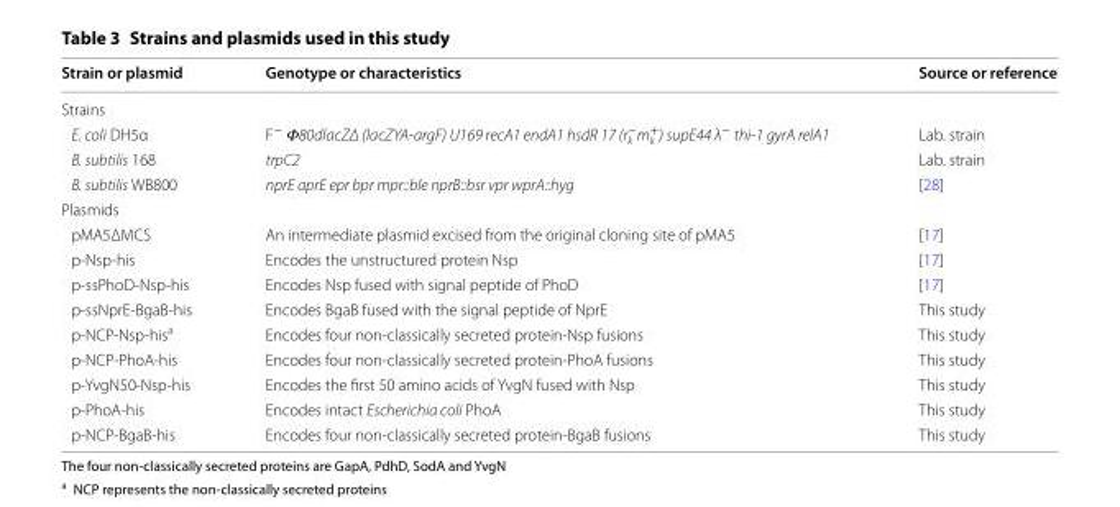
<table><thead><tr><td>Strain or plasmid</td><td>Genotype or characteristics</td><td>Source or reference</td></tr></thead><tbody><tr><td colspan="3">Strains</td></tr><tr><td>E. coli DH5α</td><td>F<sup>−</sup> Ф80dlacZΔ (lacZYA-argF) U169 recA1 endA1 hsdR 17 (r<sub>k</sub> <sup>−</sup>m<sub>k</sub> <sup>+</sup>) supE44 λ<sup>−</sup> thi-1 gyrA relA1</td><td>Lab. strain</td></tr><tr><td>B. subtilis 168</td><td>trpC2</td><td>Lab. strain</td></tr><tr><td>B. subtilis WB800</td><td>nprE aprE epr bpr mpr::ble nprB::bsr vpr wprA::hyg</td><td>[28]</td></tr><tr><td colspan="3">Plasmids</td></tr><tr><td>pMA5ΔMCS</td><td>An intermediate plasmid excised from the original cloning site of pMA5</td><td>[17]</td></tr><tr><td>p-Nsp-his</td><td>Encodes the unstructured protein Nsp</td><td>[17]</td></tr><tr><td>p-ssPhoD-Nsp-his</td><td>Encodes Nsp fused with signal peptide of PhoD</td><td>[17]</td></tr><tr><td>p-ssNprE-BgaB-his</td><td>Encodes BgaB fused with the signal peptide of NprE</td><td>This study</td></tr><tr><td>p-NCP-Nsp-his<sup>a</sup></td><td>Encodes four non-classically secreted protein-Nsp fusions</td><td>This study</td></tr><tr><td>p-NCP-PhoA-his</td><td>Encodes four non-classically secreted protein-PhoA fusions</td><td>This study</td></tr><tr><td>p-YvgN50-Nsp-his</td><td>Encodes the first 50 amino acids of YvgN fused with Nsp</td><td>This study</td></tr><tr><td>p-PhoA-his</td><td>Encodes intact Escherichia coli PhoA</td><td>This study</td></tr><tr><td>p-NCP-BgaB-his</td><td>Encodes four non-classically secreted protein-BgaB fusions</td><td>This study</td></tr></tbody></table>